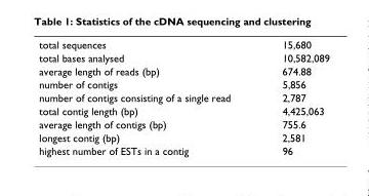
<table><tbody><tr><td>total sequences</td><td>15,680</td></tr><tr><td>total bases analysed</td><td>10,582,089</td></tr><tr><td>average length of reads (bp)</td><td>674.88</td></tr><tr><td>number of contigs</td><td>5,856</td></tr><tr><td>number of contigs consisting of a single read</td><td>2,787</td></tr><tr><td>total contig length (bp)</td><td>4,425,063</td></tr><tr><td>average length of contigs (bp)</td><td>755.6</td></tr><tr><td>longest contig (bp)</td><td>2,581</td></tr><tr><td>highest number of ESTs in a contig</td><td>96</td></tr></tbody></table>